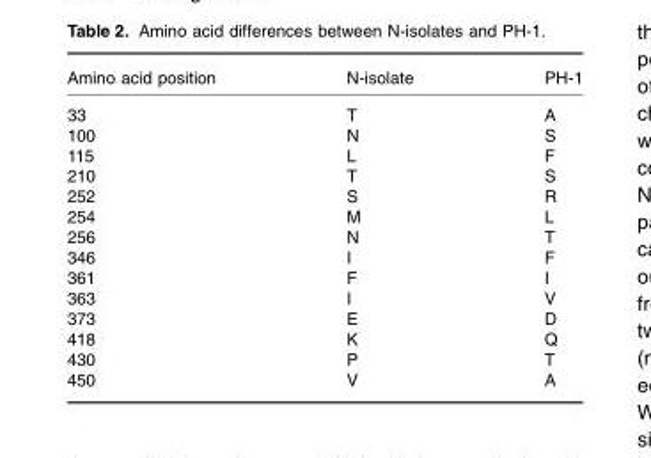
<table><thead><tr><td>Amino acid position</td><td>N-isolate</td><td>PH-1</td></tr></thead><tbody><tr><td>33</td><td>T</td><td>A</td></tr><tr><td>100</td><td>N</td><td>S</td></tr><tr><td>115</td><td>L</td><td>F</td></tr><tr><td>210</td><td>T</td><td>S</td></tr><tr><td>252</td><td>S</td><td>R</td></tr><tr><td>254</td><td>M</td><td>L</td></tr><tr><td>256</td><td>N</td><td>T</td></tr><tr><td>346</td><td>I</td><td>F</td></tr><tr><td>361</td><td>F</td><td>I</td></tr><tr><td>363</td><td>I</td><td>V</td></tr><tr><td>373</td><td>E</td><td>D</td></tr><tr><td>418</td><td>K</td><td>Q</td></tr><tr><td>430</td><td>P</td><td>T</td></tr><tr><td>450</td><td>V</td><td>A</td></tr></tbody></table>